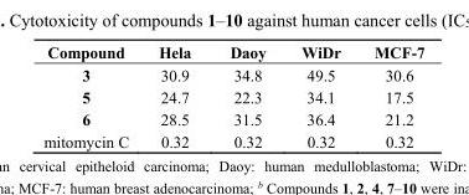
<table><thead><tr><td>Compound</td><td>Hela</td><td>Daoy</td><td>WiDr</td><td>MCF-7</td></tr></thead><tbody><tr><td>3</td><td>30.9</td><td>34.8</td><td>49.5</td><td>30.6</td></tr><tr><td>5</td><td>24.7</td><td>22.3</td><td>34.1</td><td>17.5</td></tr><tr><td>6</td><td>28.5</td><td>31.5</td><td>36.4</td><td>21.2</td></tr><tr><td>mitomycin C</td><td>0.32</td><td>0.32</td><td>0.32</td><td>0.32</td></tr></tbody></table>